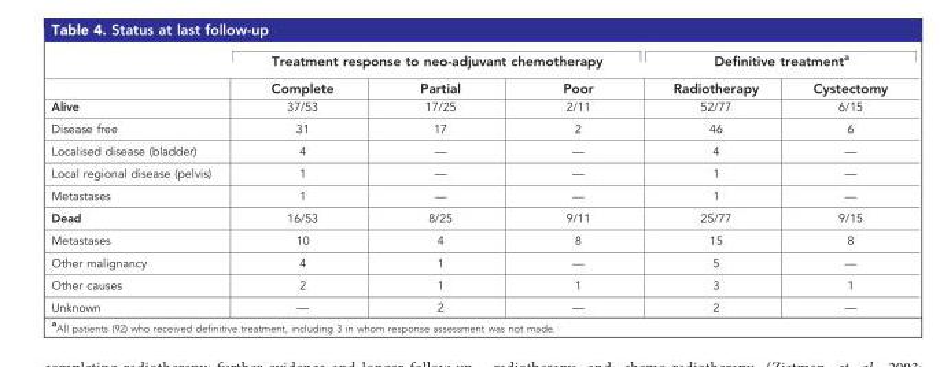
<table><thead><tr><td rowspan="2"></td><td colspan="3">Treatment response to neo-adjuvant chemotherapy</td><td colspan="2">Definitive treatment<sup>a</sup></td></tr><tr><td>Complete</td><td>Partial</td><td>Poor</td><td>Radiotherapy</td><td>Cystectomy</td></tr></thead><tbody><tr><td>Alive</td><td>37/53</td><td>17/25</td><td>2/11</td><td>52/77</td><td>6/15</td></tr><tr><td>Disease free</td><td>31</td><td>17</td><td>2</td><td>46</td><td>6</td></tr><tr><td>Localised disease (bladder)</td><td>4</td><td>—</td><td>—</td><td>4</td><td>—</td></tr><tr><td>Local regional disease (pelvis)</td><td>1</td><td>—</td><td>—</td><td>1</td><td>—</td></tr><tr><td>Metastases</td><td>1</td><td>—</td><td>—</td><td>1</td><td>—</td></tr><tr><td>Dead</td><td>16/53</td><td>8/25</td><td>9/11</td><td>25/77</td><td>9/15</td></tr><tr><td>Metastases</td><td>10</td><td>4</td><td>8</td><td>15</td><td>8</td></tr><tr><td>Other malignancy</td><td>4</td><td>1</td><td>—</td><td>5</td><td>—</td></tr><tr><td>Other causes</td><td>2</td><td>1</td><td>1</td><td>3</td><td>1</td></tr><tr><td>Unknown</td><td>—</td><td>2</td><td>—</td><td>2</td><td>—</td></tr></tbody></table>